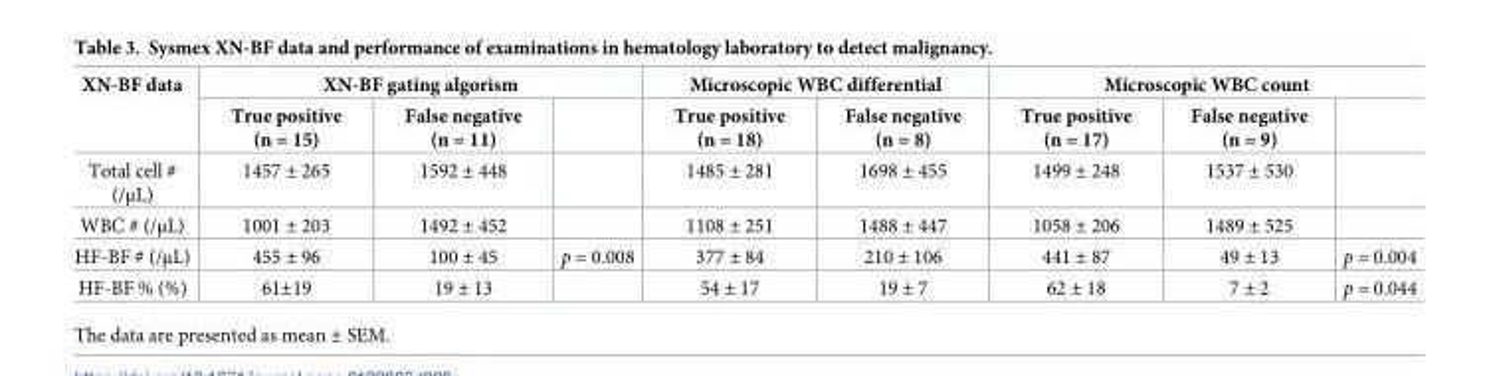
<table><thead><tr><td rowspan="2">XN-BF data</td><td colspan="3">XN-BF gating algorism</td><td colspan="2">Microscopic WBC differential</td><td colspan="3">Microscopic WBC count</td></tr><tr><td>True positive (n = 15)</td><td>False negative (n = 11)</td><td></td><td>True positive (n = 18)</td><td>False negative (n = 8)</td><td>True positive (n = 17)</td><td>False negative (n = 9)</td><td></td></tr></thead><tbody><tr><td>Total cell # (/μL)</td><td>1457 ± 265</td><td>1592 ± 448</td><td></td><td>1485 ± 281</td><td>1698 ± 455</td><td>1499 ± 248</td><td>1537 ± 530</td><td></td></tr><tr><td>WBC # (/μL)</td><td>1001 ± 203</td><td>1492 ± 452</td><td></td><td>1108 ± 251</td><td>1488 ± 447</td><td>1058 ± 206</td><td>1489 ± 525</td><td></td></tr><tr><td>HF-BF # (/μL)</td><td>455 ± 96</td><td>100 ± 45</td><td>p = 0.008</td><td>377 ± 84</td><td>210 ± 106</td><td>441 ± 87</td><td>49 ± 13</td><td>p = 0.004</td></tr><tr><td>HF-BF % (%)</td><td>61±19</td><td>19 ± 13</td><td></td><td>54 ± 17</td><td>19 ± 7</td><td>62 ± 18</td><td>7 ± 2</td><td>p = 0.044</td></tr></tbody></table>